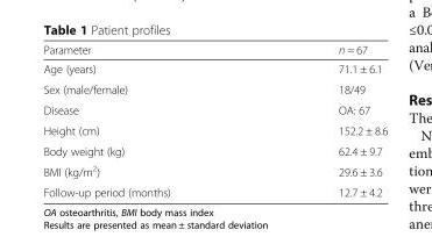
<table><thead><tr><td>Parameter</td><td>n = 67</td></tr></thead><tbody><tr><td>Age (years)</td><td>71.1 ± 6.1</td></tr><tr><td>Sex (male/female)</td><td>18/49</td></tr><tr><td>Disease</td><td>OA: 67</td></tr><tr><td>Height (cm)</td><td>152.2 ± 8.6</td></tr><tr><td>Body weight (kg)</td><td>62.4 ± 9.7</td></tr><tr><td>BMI (kg/m<sup>2</sup>)</td><td>29.6 ± 3.6</td></tr><tr><td>Follow-up period (months)</td><td>12.7 ± 4.2</td></tr></tbody></table>